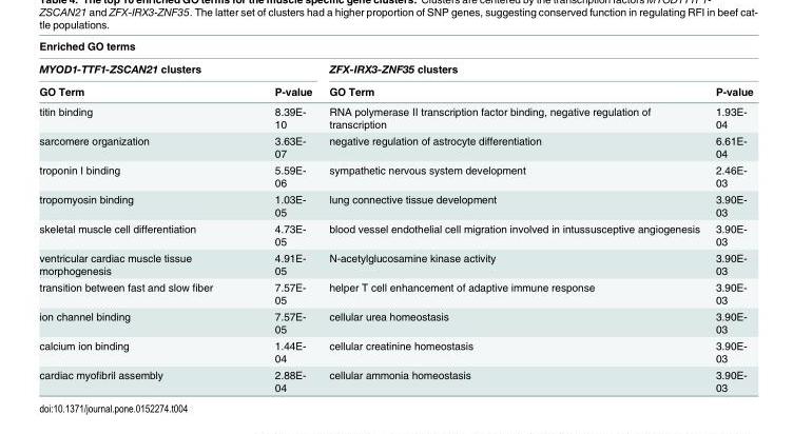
<table><thead><tr><td colspan="4">Enriched GO terms</td></tr><tr><td colspan="2">MYOD1-TTF1-ZSCAN21 clusters</td><td colspan="2">ZFX-IRX3-ZNF35 clusters</td></tr><tr><td>GO Term</td><td>P-value</td><td>GO Term</td><td>P-value</td></tr></thead><tbody><tr><td>titin binding</td><td>8.39E- 10</td><td>RNA polymerase II transcription factor binding, negative regulation of transcription</td><td>1.93E- 04</td></tr><tr><td>sarcomere organization</td><td>3.63E- 07</td><td>negative regulation of astrocyte differentiation</td><td>6.61E- 04</td></tr><tr><td>troponin I binding</td><td>5.59E- 06</td><td>sympathetic nervous system development</td><td>2.46E- 03</td></tr><tr><td>tropomyosin binding</td><td>1.03E- 05</td><td>lung connective tissue development</td><td>3.90E- 03</td></tr><tr><td>skeletal muscle cell differentiation</td><td>4.73E- 05</td><td>blood vessel endothelial cell migration involved in intussusceptive angiogenesis</td><td>3.90E- 03</td></tr><tr><td>ventricular cardiac muscle tissue morphogenesis</td><td>4.91E- 05</td><td>N-acetylglucosamine kinase activity</td><td>3.90E- 03</td></tr><tr><td>transition between fast and slow fiber</td><td>7.57E- 05</td><td>helper T cell enhancement of adaptive immune response</td><td>3.90E- 03</td></tr><tr><td>ion channel binding</td><td>7.57E- 05</td><td>cellular urea homeostasis</td><td>3.90E- 03</td></tr><tr><td>calcium ion binding</td><td>1.44E- 04</td><td>cellular creatinine homeostasis</td><td>3.90E- 03</td></tr><tr><td>cardiac myofibril assembly</td><td>2.88E- 04</td><td>cellular ammonia homeostasis</td><td>3.90E- 03</td></tr></tbody></table>